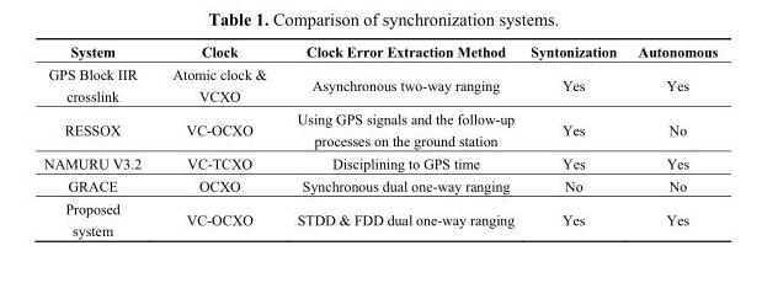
<table><thead><tr><td>System</td><td>Clock</td><td>Clock Error Extraction Method</td><td>Syntonization</td><td>Autonomous</td></tr></thead><tbody><tr><td>GPS Block IIR crosslink</td><td>Atomic clock &amp; VCXO</td><td>Asynchronous two-way ranging</td><td>Yes</td><td>Yes</td></tr><tr><td>RESSOX</td><td>VC-OCXO</td><td>Using GPS signals and the follow-up processes on the ground station</td><td>Yes</td><td>No</td></tr><tr><td>NAMURU V3.2</td><td>VC-TCXO</td><td>Disciplining to GPS time</td><td>Yes</td><td>Yes</td></tr><tr><td>GRACE</td><td>OCXO</td><td>Synchronous dual one-way ranging</td><td>No</td><td>No</td></tr><tr><td>Proposed system</td><td>VC-OCXO</td><td>STDD &amp; FDD dual one-way ranging</td><td>Yes</td><td>Yes</td></tr></tbody></table>